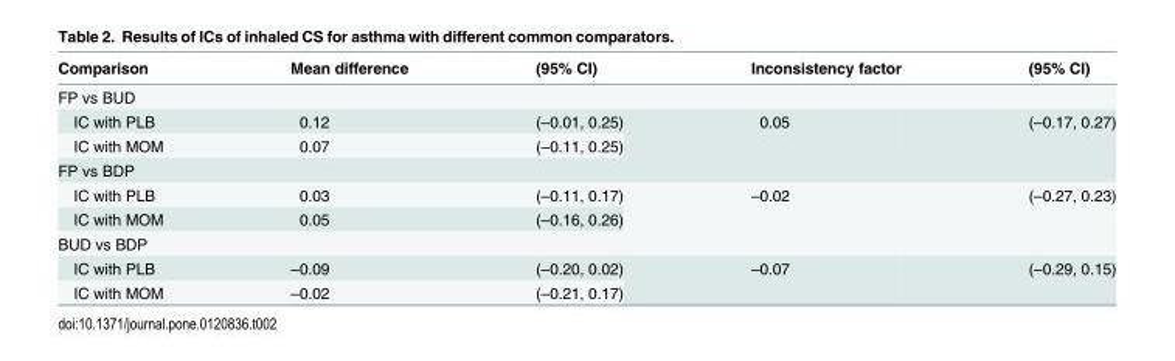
<table><thead><tr><td>Comparison</td><td>Mean difference</td><td>(95% CI)</td><td>Inconsistency factor</td><td>(95% CI)</td></tr></thead><tbody><tr><td colspan="5">FP vs BUD</td></tr><tr><td>IC with PLB</td><td>0.12</td><td>(–0.01, 0.25)</td><td rowspan="2">0.05</td><td rowspan="2">(–0.17, 0.27)</td></tr><tr><td>IC with MOM</td><td>0.07</td><td>(–0.11, 0.25)</td></tr><tr><td colspan="5">FP vs BDP</td></tr><tr><td>IC with PLB</td><td>0.03</td><td>(–0.11, 0.17)</td><td rowspan="2">–0.02</td><td rowspan="2">(–0.27, 0.23)</td></tr><tr><td>IC with MOM</td><td>0.05</td><td>(–0.16, 0.26)</td></tr><tr><td colspan="5">BUD vs BDP</td></tr><tr><td>IC with PLB</td><td>–0.09</td><td>(–0.20, 0.02)</td><td rowspan="2">–0.07</td><td rowspan="2">(–0.29, 0.15)</td></tr><tr><td>IC with MOM</td><td>–0.02</td><td>(–0.21, 0.17)</td></tr></tbody></table>